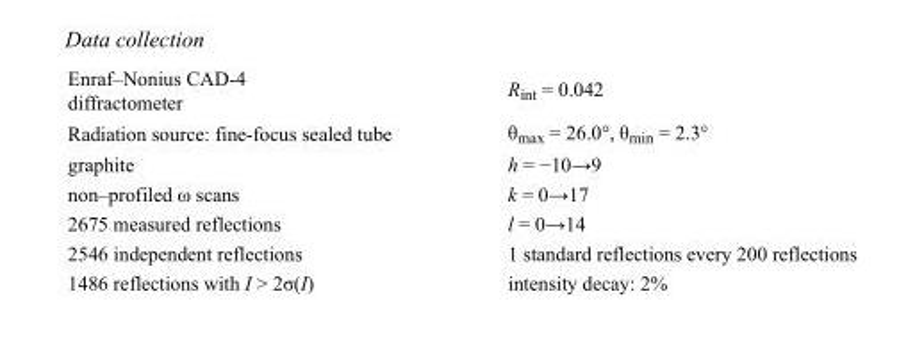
<table><tbody><tr><td>Enraf–Nonius CAD-4 diffractometer</td><td>R<sub>int</sub> = 0.042</td></tr><tr><td>Radiation source: fine-focus sealed tube</td><td>θ<sub>max</sub> = 26.0°, θ<sub>min</sub> = 2.3°</td></tr><tr><td>graphite</td><td>h = −10→9</td></tr><tr><td>non–profiled ω scans</td><td>k = 0→17</td></tr><tr><td>2675 measured reflections</td><td>l = 0→14</td></tr><tr><td>2546 independent reflections</td><td>1 standard reflections every 200 reflections</td></tr><tr><td>1486 reflections with I &gt; 2σ(I)</td><td>intensity decay: 2%</td></tr></tbody></table>